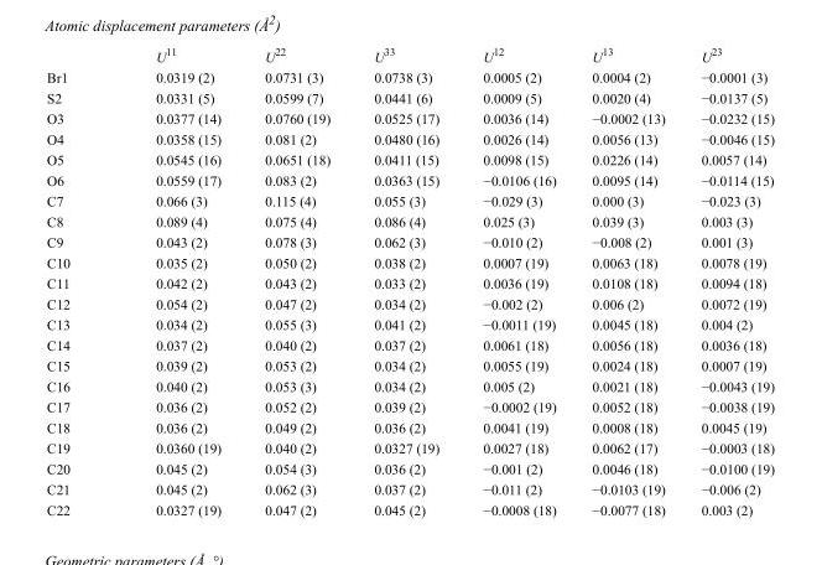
<table><thead><tr><td></td><td>U<sup>11</sup></td><td>U<sup>22</sup></td><td>U<sup>33</sup></td><td>U<sup>12</sup></td><td>U<sup>13</sup></td><td>U<sup>23</sup></td></tr></thead><tbody><tr><td>Br1</td><td>0.0319 (2)</td><td>0.0731 (3)</td><td>0.0738 (3)</td><td>0.0005 (2)</td><td>0.0004 (2)</td><td>−0.0001 (3)</td></tr><tr><td>S2</td><td>0.0331 (5)</td><td>0.0599 (7)</td><td>0.0441 (6)</td><td>0.0009 (5)</td><td>0.0020 (4)</td><td>−0.0137 (5)</td></tr><tr><td>O3</td><td>0.0377 (14)</td><td>0.0760 (19)</td><td>0.0525 (17)</td><td>0.0036 (14)</td><td>−0.0002 (13)</td><td>−0.0232 (15)</td></tr><tr><td>O4</td><td>0.0358 (15)</td><td>0.081 (2)</td><td>0.0480 (16)</td><td>0.0026 (14)</td><td>0.0056 (13)</td><td>−0.0046 (15)</td></tr><tr><td>O5</td><td>0.0545 (16)</td><td>0.0651 (18)</td><td>0.0411 (15)</td><td>0.0098 (15)</td><td>0.0226 (14)</td><td>0.0057 (14)</td></tr><tr><td>O6</td><td>0.0559 (17)</td><td>0.083 (2)</td><td>0.0363 (15)</td><td>−0.0106 (16)</td><td>0.0095 (14)</td><td>−0.0114 (15)</td></tr><tr><td>C7</td><td>0.066 (3)</td><td>0.115 (4)</td><td>0.055 (3)</td><td>−0.029 (3)</td><td>0.000 (3)</td><td>−0.023 (3)</td></tr><tr><td>C8</td><td>0.089 (4)</td><td>0.075 (4)</td><td>0.086 (4)</td><td>0.025 (3)</td><td>0.039 (3)</td><td>0.003 (3)</td></tr><tr><td>C9</td><td>0.043 (2)</td><td>0.078 (3)</td><td>0.062 (3)</td><td>−0.010 (2)</td><td>−0.008 (2)</td><td>0.001 (3)</td></tr><tr><td>C10</td><td>0.035 (2)</td><td>0.050 (2)</td><td>0.038 (2)</td><td>0.0007 (19)</td><td>0.0063 (18)</td><td>0.0078 (19)</td></tr><tr><td>C11</td><td>0.042 (2)</td><td>0.043 (2)</td><td>0.033 (2)</td><td>0.0036 (19)</td><td>0.0108 (18)</td><td>0.0094 (18)</td></tr><tr><td>C12</td><td>0.054 (2)</td><td>0.047 (2)</td><td>0.034 (2)</td><td>−0.002 (2)</td><td>0.006 (2)</td><td>0.0072 (19)</td></tr><tr><td>C13</td><td>0.034 (2)</td><td>0.055 (3)</td><td>0.041 (2)</td><td>−0.0011 (19)</td><td>0.0045 (18)</td><td>0.004 (2)</td></tr><tr><td>C14</td><td>0.037 (2)</td><td>0.040 (2)</td><td>0.037 (2)</td><td>0.0061 (18)</td><td>0.0056 (18)</td><td>0.0036 (18)</td></tr><tr><td>C15</td><td>0.039 (2)</td><td>0.053 (2)</td><td>0.034 (2)</td><td>0.0055 (19)</td><td>0.0024 (18)</td><td>0.0007 (19)</td></tr><tr><td>C16</td><td>0.040 (2)</td><td>0.053 (3)</td><td>0.034 (2)</td><td>0.005 (2)</td><td>0.0021 (18)</td><td>−0.0043 (19)</td></tr><tr><td>C17</td><td>0.036 (2)</td><td>0.052 (2)</td><td>0.039 (2)</td><td>−0.0002 (19)</td><td>0.0052 (18)</td><td>−0.0038 (19)</td></tr><tr><td>C18</td><td>0.036 (2)</td><td>0.049 (2)</td><td>0.036 (2)</td><td>0.0041 (19)</td><td>0.0008 (18)</td><td>0.0045 (19)</td></tr><tr><td>C19</td><td>0.0360 (19)</td><td>0.040 (2)</td><td>0.0327 (19)</td><td>0.0027 (18)</td><td>0.0062 (17)</td><td>−0.0003 (18)</td></tr><tr><td>C20</td><td>0.045 (2)</td><td>0.054 (3)</td><td>0.036 (2)</td><td>−0.001 (2)</td><td>0.0046 (18)</td><td>−0.0100 (19)</td></tr><tr><td>C21</td><td>0.045 (2)</td><td>0.062 (3)</td><td>0.037 (2)</td><td>−0.011 (2)</td><td>−0.0103 (19)</td><td>−0.006 (2)</td></tr><tr><td>C22</td><td>0.0327 (19)</td><td>0.047 (2)</td><td>0.045 (2)</td><td>−0.0008 (18)</td><td>−0.0077 (18)</td><td>0.003 (2)</td></tr></tbody></table>